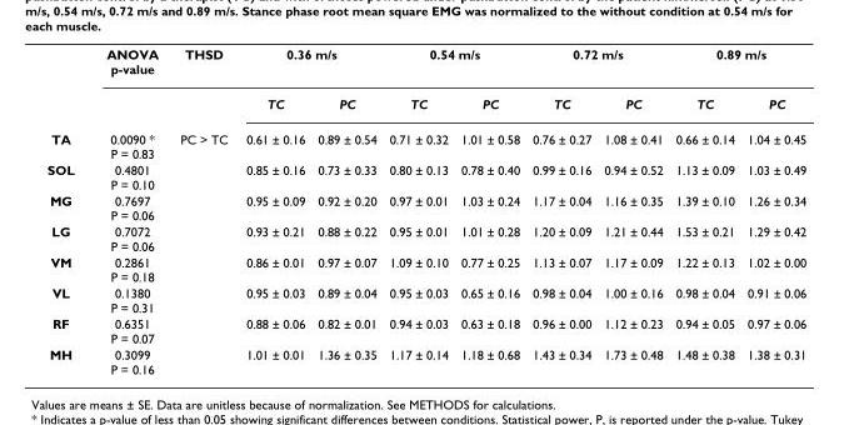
<table><thead><tr><td rowspan="2"></td><td rowspan="2">ANOVA p-value</td><td rowspan="2">THSD</td><td colspan="2">0.36 m/s</td><td colspan="2">0.54 m/s</td><td colspan="2">0.72 m/s</td><td colspan="2">0.89 m/s</td></tr><tr><td>TC</td><td>PC</td><td>TC</td><td>PC</td><td>TC</td><td>PC</td><td>TC</td><td>PC</td></tr></thead><tbody><tr><td>TA</td><td>0.0090 * P = 0.83</td><td>PC &gt; TC</td><td>0.61 ± 0.16</td><td>0.89 ± 0.54</td><td>0.71 ± 0.32</td><td>1.01 ± 0.58</td><td>0.76 ± 0.27</td><td>1.08 ± 0.41</td><td>0.66 ± 0.14</td><td>1.04 ± 0.45</td></tr><tr><td>SOL</td><td>0.4801 P = 0.10</td><td></td><td>0.85 ± 0.16</td><td>0.73 ± 0.33</td><td>0.80 ± 0.13</td><td>0.78 ± 0.40</td><td>0.99 ± 0.16</td><td>0.94 ± 0.52</td><td>1.13 ± 0.09</td><td>1.03 ± 0.49</td></tr><tr><td>MG</td><td>0.7697 P = 0.06</td><td></td><td>0.95 ± 0.09</td><td>0.92 ± 0.20</td><td>0.97 ± 0.01</td><td>1.03 ± 0.24</td><td>1.17 ± 0.04</td><td>1.16 ± 0.35</td><td>1.39 ± 0.10</td><td>1.26 ± 0.34</td></tr><tr><td>LG</td><td>0.7072 P = 0.06</td><td></td><td>0.93 ± 0.21</td><td>0.88 ± 0.22</td><td>0.95 ± 0.01</td><td>1.01 ± 0.28</td><td>1.20 ± 0.09</td><td>1.21 ± 0.44</td><td>1.53 ± 0.21</td><td>1.29 ± 0.42</td></tr><tr><td>VM</td><td>0.2861 P = 0.18</td><td></td><td>0.86 ± 0.01</td><td>0.97 ± 0.07</td><td>1.09 ± 0.10</td><td>0.77 ± 0.25</td><td>1.13 ± 0.07</td><td>1.17 ± 0.09</td><td>1.22 ± 0.13</td><td>1.02 ± 0.00</td></tr><tr><td>VL</td><td>0.1380 P = 0.31</td><td></td><td>0.95 ± 0.03</td><td>0.89 ± 0.04</td><td>0.95 ± 0.03</td><td>0.65 ± 0.16</td><td>0.98 ± 0.04</td><td>1.00 ± 0.16</td><td>0.98 ± 0.04</td><td>0.91 ± 0.06</td></tr><tr><td>RF</td><td>0.6351 P = 0.07</td><td></td><td>0.88 ± 0.06</td><td>0.82 ± 0.01</td><td>0.94 ± 0.03</td><td>0.63 ± 0.18</td><td>0.96 ± 0.00</td><td>1.12 ± 0.23</td><td>0.94 ± 0.05</td><td>0.97 ± 0.06</td></tr><tr><td>MH</td><td>0.3099 P = 0.16</td><td></td><td>1.01 ± 0.01</td><td>1.36 ± 0.35</td><td>1.17 ± 0.14</td><td>1.18 ± 0.68</td><td>1.43 ± 0.34</td><td>1.73 ± 0.48</td><td>1.48 ± 0.38</td><td>1.38 ± 0.31</td></tr></tbody></table>